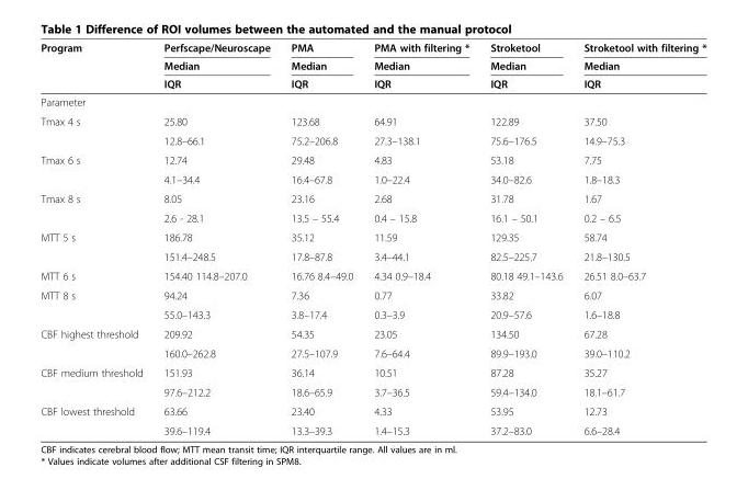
<table><thead><tr><td rowspan="3">Program</td><td rowspan="3">Perfscape/Neuroscape Median IQR</td><td rowspan="3">PMA Median IQR</td><td rowspan="3">PMA with filtering * Median IQR</td><td rowspan="3">Stroketool Median IQR</td><td rowspan="3">Stroketool with filtering * Median IQR</td></tr><tr></tr><tr></tr></thead><tbody><tr><td colspan="6">Parameter</td></tr><tr><td rowspan="2">Tmax 4 s</td><td>25.80</td><td>123.68</td><td>64.91</td><td>122.89</td><td>37.50</td></tr><tr><td>12.8–66.1</td><td>75.2–206.8</td><td>27.3–138.1</td><td>75.6–176.5</td><td>14.9–75.3</td></tr><tr><td rowspan="2">Tmax 6 s</td><td>12.74</td><td>29.48</td><td>4.83</td><td>53.18</td><td>7.75</td></tr><tr><td>4.1–34.4</td><td>16.4–67.8</td><td>1.0–22.4</td><td>34.0–82.6</td><td>1.8–18.3</td></tr><tr><td rowspan="2">Tmax 8 s</td><td>8.05</td><td>23.16</td><td>2.68</td><td>31.78</td><td>1.67</td></tr><tr><td>2.6 - 28.1</td><td>13.5 – 55.4</td><td>0.4 – 15.8</td><td>16.1 – 50.1</td><td>0.2 – 6.5</td></tr><tr><td rowspan="2">MTT 5 s</td><td>186.78</td><td>35.12</td><td>11.59</td><td>129.35</td><td>58.74</td></tr><tr><td>151.4–248.5</td><td>17.8–87.8</td><td>3.4–44.1</td><td>82.5–225.7</td><td>21.8–130.5</td></tr><tr><td>MTT 6 s</td><td>154.40 114.8–207.0</td><td>16.76 8.4–49.0</td><td>4.34 0.9–18.4</td><td>80.18 49.1–143.6</td><td>26.51 8.0–63.7</td></tr><tr><td rowspan="2">MTT 8 s</td><td>94.24</td><td>7.36</td><td>0.77</td><td>33.82</td><td>6.07</td></tr><tr><td>55.0–143.3</td><td>3.8–17.4</td><td>0.3–3.9</td><td>20.9–57.6</td><td>1.6–18.8</td></tr><tr><td rowspan="2">CBF highest threshold</td><td>209.92</td><td>54.35</td><td>23.05</td><td>134.50</td><td>67.28</td></tr><tr><td>160.0–262.8</td><td>27.5–107.9</td><td>7.6–64.4</td><td>89.9–193.0</td><td>39.0–110.2</td></tr><tr><td rowspan="2">CBF medium threshold</td><td>151.93</td><td>36.14</td><td>10.51</td><td>87.28</td><td>35.27</td></tr><tr><td>97.6–212.2</td><td>18.6–65.9</td><td>3.7–36.5</td><td>59.4–134.0</td><td>18.1–61.7</td></tr><tr><td rowspan="2">CBF lowest threshold</td><td>63.66</td><td>23.40</td><td>4.33</td><td>53.95</td><td>12.73</td></tr><tr><td>39.6–119.4</td><td>13.3–39.3</td><td>1.4–15.3</td><td>37.2–83.0</td><td>6.6–28.4</td></tr></tbody></table>